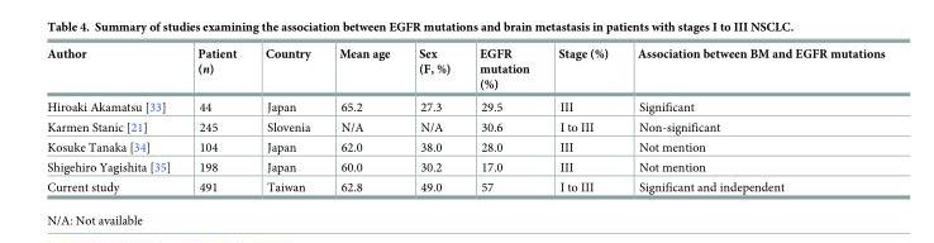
<table><thead><tr><td>Author</td><td>Patient (n)</td><td>Country</td><td>Mean age</td><td>Sex (F, %)</td><td>EGFR mutation (%)</td><td>Stage (%)</td><td>Association between BM and EGFR mutations</td></tr></thead><tbody><tr><td>Hiroaki Akamatsu [33]</td><td>44</td><td>Japan</td><td>65.2</td><td>27.3</td><td>29.5</td><td>III</td><td>Significant</td></tr><tr><td>Karmen Stanic [21]</td><td>245</td><td>Slovenia</td><td>N/A</td><td>N/A</td><td>30.6</td><td>I to III</td><td>Non-significant</td></tr><tr><td>Kosuke Tanaka [34]</td><td>104</td><td>Japan</td><td>62.0</td><td>38.0</td><td>28.0</td><td>III</td><td>Not mention</td></tr><tr><td>Shigehiro Yagishita [35]</td><td>198</td><td>Japan</td><td>60.0</td><td>30.2</td><td>17.0</td><td>III</td><td>Not mention</td></tr><tr><td>Current study</td><td>491</td><td>Taiwan</td><td>62.8</td><td>49.0</td><td>57</td><td>I to III</td><td>Significant and independent</td></tr></tbody></table>